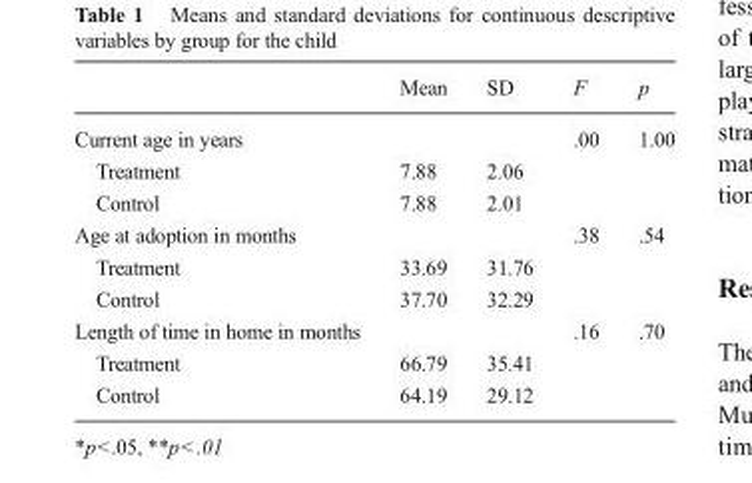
<table><thead><tr><td></td><td>Mean</td><td>SD</td><td>F</td><td>p</td></tr></thead><tbody><tr><td>Current age in years</td><td></td><td></td><td>.00</td><td>1.00</td></tr><tr><td>Treatment</td><td>7.88</td><td>2.06</td><td></td><td></td></tr><tr><td>Control</td><td>7.88</td><td>2.01</td><td></td><td></td></tr><tr><td>Age at adoption in months</td><td></td><td></td><td>.38</td><td>.54</td></tr><tr><td>Treatment</td><td>33.69</td><td>31.76</td><td></td><td></td></tr><tr><td>Control</td><td>37.70</td><td>32.29</td><td></td><td></td></tr><tr><td>Length of time in home in months</td><td></td><td></td><td>.16</td><td>.70</td></tr><tr><td>Treatment</td><td>66.79</td><td>35.41</td><td></td><td></td></tr><tr><td>Control</td><td>64.19</td><td>29.12</td><td></td><td></td></tr></tbody></table>